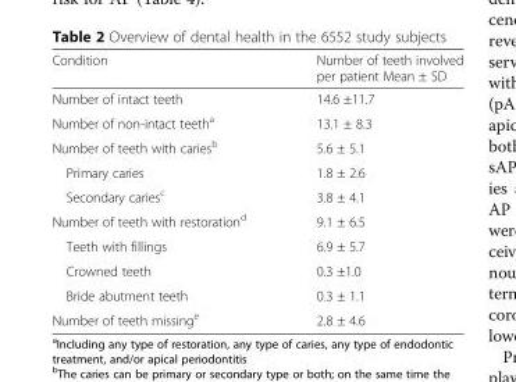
<table><thead><tr><td>Condition</td><td>Number of teeth involved per patient Mean ± SD</td></tr></thead><tbody><tr><td>Number of intact teeth</td><td>14.6 ±11.7</td></tr><tr><td>Number of non-intact teeth<sup>a</sup></td><td>13.1 ± 8.3</td></tr><tr><td>Number of teeth with caries<sup>b</sup></td><td>5.6 ± 5.1</td></tr><tr><td>Primary caries</td><td>1.8 ± 2.6</td></tr><tr><td>Secondary caries<sup>c</sup></td><td>3.8 ± 4.1</td></tr><tr><td>Number of teeth with restoration<sup>d</sup></td><td>9.1 ± 6.5</td></tr><tr><td>Teeth with fillings</td><td>6.9 ± 5.7</td></tr><tr><td>Crowned teeth</td><td>0.3 ±1.0</td></tr><tr><td>Bride abutment teeth</td><td>0.3 ± 1.1</td></tr><tr><td>Number of teeth missing<sup>e</sup></td><td>2.8 ± 4.6</td></tr></tbody></table>